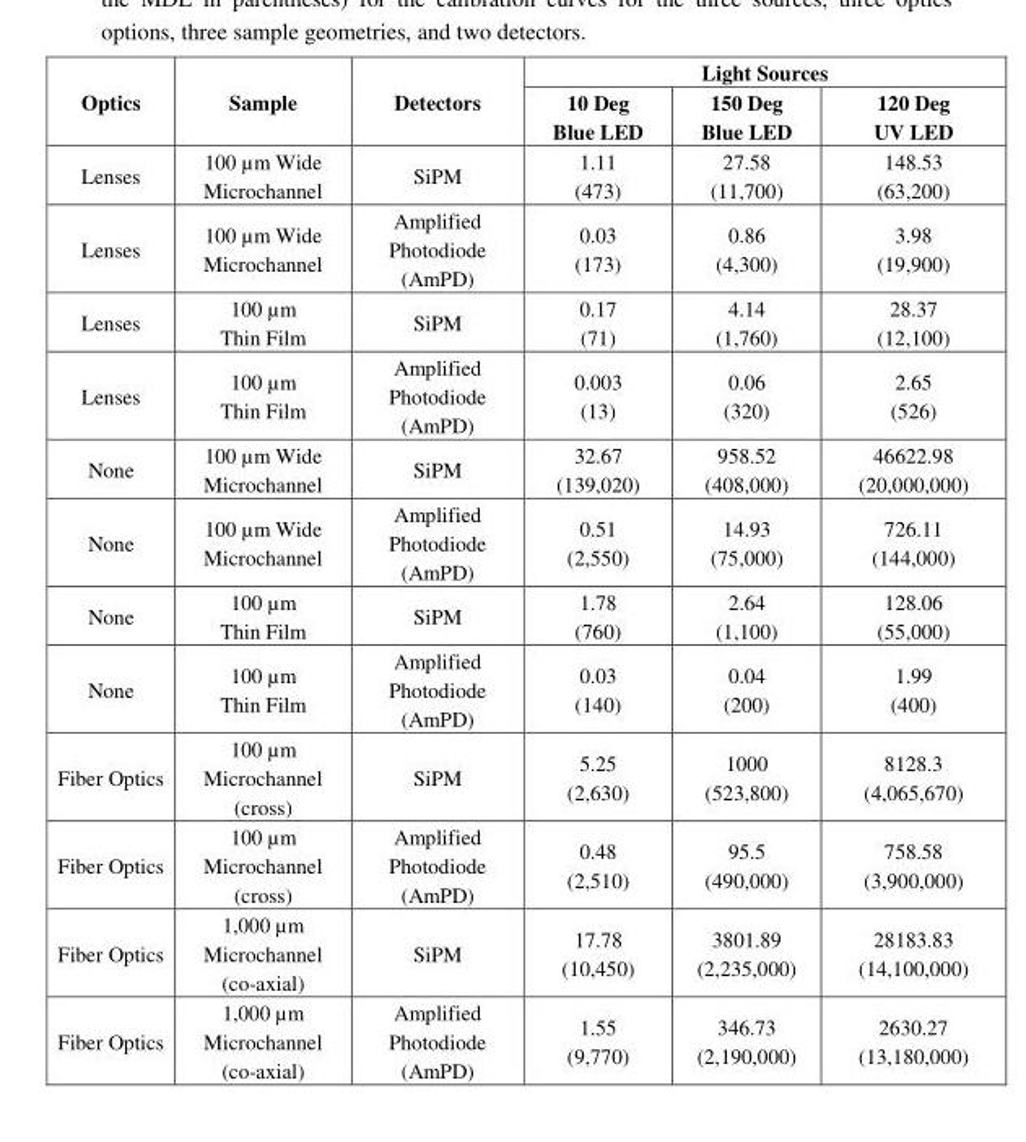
<table><thead><tr><td rowspan="2">Optics</td><td rowspan="2">Sample</td><td rowspan="2">Detectors</td><td colspan="3">Light Sources</td></tr><tr><td>10 Deg Blue LED</td><td>150 Deg Blue LED</td><td>120 Deg UV LED</td></tr></thead><tbody><tr><td>Lenses</td><td>100 µm Wide Microchannel</td><td>SiPM</td><td>1.11 (473)</td><td>27.58 (11,700)</td><td>148.53 (63,200)</td></tr><tr><td>Lenses</td><td>100 µm Wide Microchannel</td><td>Amplified Photodiode (AmPD)</td><td>0.03 (173)</td><td>0.86 (4,300)</td><td>3.98 (19,900)</td></tr><tr><td>Lenses</td><td>100 µm Thin Film</td><td>SiPM</td><td>0.17 (71)</td><td>4.14 (1,760)</td><td>28.37 (12,100)</td></tr><tr><td>Lenses</td><td>100 µm Thin Film</td><td>Amplified Photodiode (AmPD)</td><td>0.003 (13)</td><td>0.06 (320)</td><td>2.65 (526)</td></tr><tr><td>None</td><td>100 µm Wide Microchannel</td><td>SiPM</td><td>32.67 (139,020)</td><td>958.52 (408,000)</td><td>46622.98 (20,000,000)</td></tr><tr><td>None</td><td>100 µm Wide Microchannel</td><td>Amplified Photodiode (AmPD)</td><td>0.51 (2,550)</td><td>14.93 (75,000)</td><td>726.11 (144,000)</td></tr><tr><td>None</td><td>100 µm Thin Film</td><td>SiPM</td><td>1.78 (760)</td><td>2.64 (1,100)</td><td>128.06 (55,000)</td></tr><tr><td>None</td><td>100 µm Thin Film</td><td>Amplified Photodiode (AmPD)</td><td>0.03 (140)</td><td>0.04 (200)</td><td>1.99 (400)</td></tr><tr><td>Fiber Optics</td><td>100 µm Microchannel (cross)</td><td>SiPM</td><td>5.25 (2,630)</td><td>1000 (523,800)</td><td>8128.3 (4,065,670)</td></tr><tr><td>Fiber Optics</td><td>100 µm Microchannel (cross)</td><td>Amplified Photodiode (AmPD)</td><td>0.48 (2,510)</td><td>95.5 (490,000)</td><td>758.58 (3,900,000)</td></tr><tr><td>Fiber Optics</td><td>1,000 µm Microchannel (co-axial)</td><td>SiPM</td><td>17.78 (10,450)</td><td>3801.89 (2,235,000)</td><td>28183.83 (14,100,000)</td></tr><tr><td>Fiber Optics</td><td>1,000 µm Microchannel (co-axial)</td><td>Amplified Photodiode (AmPD)</td><td>1.55 (9,770)</td><td>346.73 (2,190,000)</td><td>2630.27 (13,180,000)</td></tr></tbody></table>